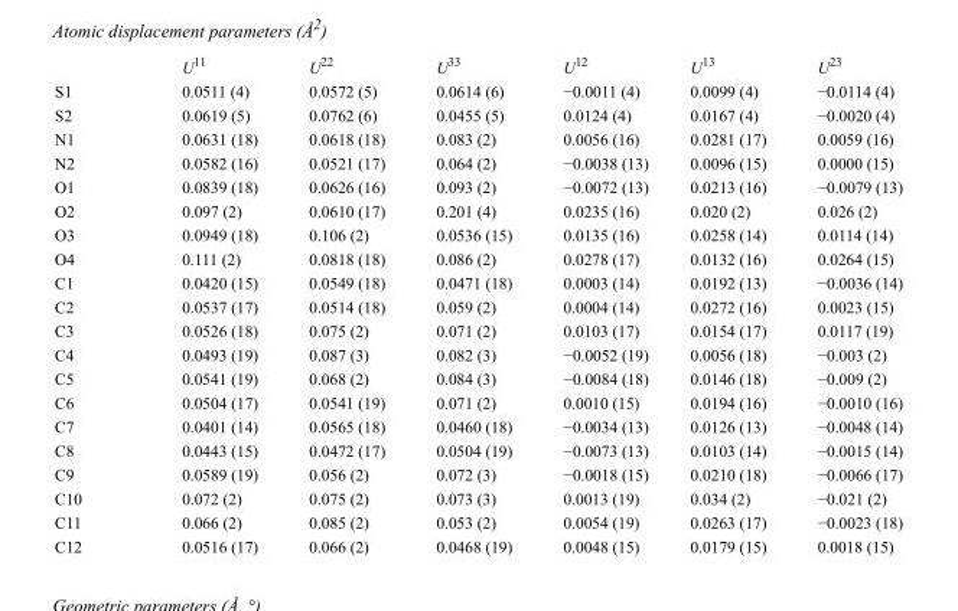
<table><thead><tr><td></td><td>U<sup>11</sup></td><td>U<sup>22</sup></td><td>U<sup>33</sup></td><td>U<sup>12</sup></td><td>U<sup>13</sup></td><td>U<sup>23</sup></td></tr></thead><tbody><tr><td>S1</td><td>0.0511 (4)</td><td>0.0572 (5)</td><td>0.0614 (6)</td><td>−0.0011 (4)</td><td>0.0099 (4)</td><td>−0.0114 (4)</td></tr><tr><td>S2</td><td>0.0619 (5)</td><td>0.0762 (6)</td><td>0.0455 (5)</td><td>0.0124 (4)</td><td>0.0167 (4)</td><td>−0.0020 (4)</td></tr><tr><td>N1</td><td>0.0631 (18)</td><td>0.0618 (18)</td><td>0.083 (2)</td><td>0.0056 (16)</td><td>0.0281 (17)</td><td>0.0059 (16)</td></tr><tr><td>N2</td><td>0.0582 (16)</td><td>0.0521 (17)</td><td>0.064 (2)</td><td>−0.0038 (13)</td><td>0.0096 (15)</td><td>0.0000 (15)</td></tr><tr><td>O1</td><td>0.0839 (18)</td><td>0.0626 (16)</td><td>0.093 (2)</td><td>−0.0072 (13)</td><td>0.0213 (16)</td><td>−0.0079 (13)</td></tr><tr><td>O2</td><td>0.097 (2)</td><td>0.0610 (17)</td><td>0.201 (4)</td><td>0.0235 (16)</td><td>0.020 (2)</td><td>0.026 (2)</td></tr><tr><td>O3</td><td>0.0949 (18)</td><td>0.106 (2)</td><td>0.0536 (15)</td><td>0.0135 (16)</td><td>0.0258 (14)</td><td>0.0114 (14)</td></tr><tr><td>O4</td><td>0.111 (2)</td><td>0.0818 (18)</td><td>0.086 (2)</td><td>0.0278 (17)</td><td>0.0132 (16)</td><td>0.0264 (15)</td></tr><tr><td>C1</td><td>0.0420 (15)</td><td>0.0549 (18)</td><td>0.0471 (18)</td><td>0.0003 (14)</td><td>0.0192 (13)</td><td>−0.0036 (14)</td></tr><tr><td>C2</td><td>0.0537 (17)</td><td>0.0514 (18)</td><td>0.059 (2)</td><td>0.0004 (14)</td><td>0.0272 (16)</td><td>0.0023 (15)</td></tr><tr><td>C3</td><td>0.0526 (18)</td><td>0.075 (2)</td><td>0.071 (2)</td><td>0.0103 (17)</td><td>0.0154 (17)</td><td>0.0117 (19)</td></tr><tr><td>C4</td><td>0.0493 (19)</td><td>0.087 (3)</td><td>0.082 (3)</td><td>−0.0052 (19)</td><td>0.0056 (18)</td><td>−0.003 (2)</td></tr><tr><td>C5</td><td>0.0541 (19)</td><td>0.068 (2)</td><td>0.084 (3)</td><td>−0.0084 (18)</td><td>0.0146 (18)</td><td>−0.009 (2)</td></tr><tr><td>C6</td><td>0.0504 (17)</td><td>0.0541 (19)</td><td>0.071 (2)</td><td>0.0010 (15)</td><td>0.0194 (16)</td><td>−0.0010 (16)</td></tr><tr><td>C7</td><td>0.0401 (14)</td><td>0.0565 (18)</td><td>0.0460 (18)</td><td>−0.0034 (13)</td><td>0.0126 (13)</td><td>−0.0048 (14)</td></tr><tr><td>C8</td><td>0.0443 (15)</td><td>0.0472 (17)</td><td>0.0504 (19)</td><td>−0.0073 (13)</td><td>0.0103 (14)</td><td>−0.0015 (14)</td></tr><tr><td>C9</td><td>0.0589 (19)</td><td>0.056 (2)</td><td>0.072 (3)</td><td>−0.0018 (15)</td><td>0.0210 (18)</td><td>−0.0066 (17)</td></tr><tr><td>C10</td><td>0.072 (2)</td><td>0.075 (2)</td><td>0.073 (3)</td><td>0.0013 (19)</td><td>0.034 (2)</td><td>−0.021 (2)</td></tr><tr><td>C11</td><td>0.066 (2)</td><td>0.085 (2)</td><td>0.053 (2)</td><td>0.0054 (19)</td><td>0.0263 (17)</td><td>−0.0023 (18)</td></tr><tr><td>C12</td><td>0.0516 (17)</td><td>0.066 (2)</td><td>0.0468 (19)</td><td>0.0048 (15)</td><td>0.0179 (15)</td><td>0.0018 (15)</td></tr></tbody></table>